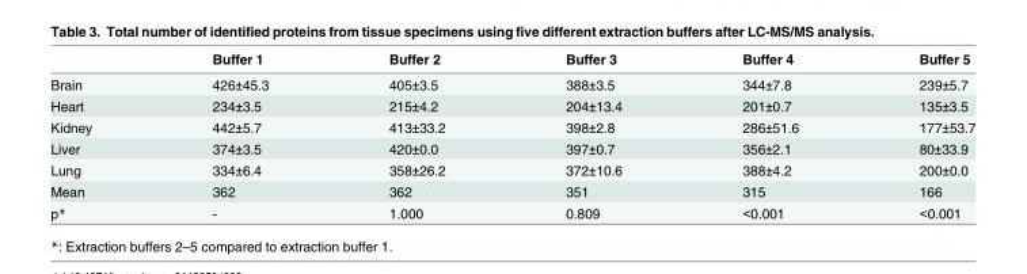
<table><thead><tr><td></td><td>Buffer 1</td><td>Buffer 2</td><td>Buffer 3</td><td>Buffer 4</td><td>Buffer 5</td></tr></thead><tbody><tr><td>Brain</td><td>426±45.3</td><td>405±3.5</td><td>388±3.5</td><td>344±7.8</td><td>239±5.7</td></tr><tr><td>Heart</td><td>234±3.5</td><td>215±4.2</td><td>204±13.4</td><td>201±0.7</td><td>135±3.5</td></tr><tr><td>Kidney</td><td>442±5.7</td><td>413±33.2</td><td>398±2.8</td><td>286±51.6</td><td>177±53.7</td></tr><tr><td>Liver</td><td>374±3.5</td><td>420±0.0</td><td>397±0.7</td><td>356±2.1</td><td>80±33.9</td></tr><tr><td>Lung</td><td>334±6.4</td><td>358±26.2</td><td>372±10.6</td><td>388±4.2</td><td>200±0.0</td></tr><tr><td>Mean</td><td>362</td><td>362</td><td>351</td><td>315</td><td>166</td></tr><tr><td>p*</td><td>-</td><td>1.000</td><td>0.809</td><td>&lt;0.001</td><td>&lt;0.001</td></tr></tbody></table>